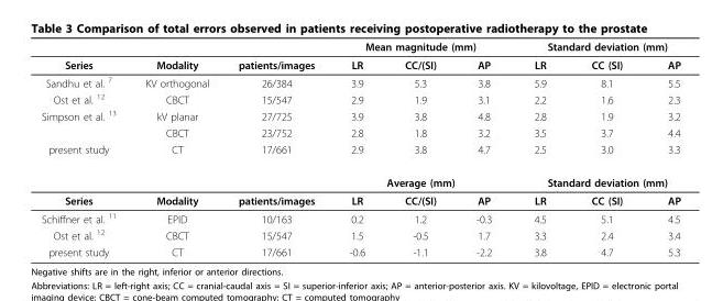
<table><thead><tr><td rowspan="2">Series</td><td rowspan="2">Modality</td><td rowspan="2">patients/images</td><td colspan="3">Mean magnitude (mm)</td><td colspan="3">Standard deviation (mm)</td></tr><tr><td>LR</td><td>CC/(SI)</td><td>AP</td><td>LR</td><td>CC (SI)</td><td>AP</td></tr></thead><tbody><tr><td>Sandhu et al. <sup>7</sup></td><td>KV orthogonal</td><td>26/384</td><td>3.9</td><td>5.3</td><td>3.8</td><td>5.9</td><td>8.1</td><td>5.5</td></tr><tr><td>Ost et al. <sup>12</sup></td><td>CBCT</td><td>15/547</td><td>2.9</td><td>1.9</td><td>3.1</td><td>2.2</td><td>1.6</td><td>2.3</td></tr><tr><td rowspan="2">Simpson et al. <sup>13</sup></td><td>kV planar</td><td>27/725</td><td>3.9</td><td>3.8</td><td>4.8</td><td>2.8</td><td>1.9</td><td>3.2</td></tr><tr><td>CBCT</td><td>23/752</td><td>2.8</td><td>1.8</td><td>3.2</td><td>3.5</td><td>3.7</td><td>4.4</td></tr><tr><td rowspan="2">present study</td><td>CT</td><td>17/661</td><td>2.9</td><td>3.8</td><td>4.7</td><td>2.5</td><td>3.0</td><td>3.3</td></tr><tr><td></td><td></td><td colspan="3">Average (mm)</td><td colspan="3">Standard deviation (mm)</td></tr><tr><td>Series</td><td>Modality</td><td>patients/images</td><td>LR</td><td>CC/(SI)</td><td>AP</td><td>LR</td><td>CC (SI)</td><td>AP</td></tr><tr><td>Schiffner et al. <sup>11</sup></td><td>EPID</td><td>10/163</td><td>0.2</td><td>1.2</td><td>-0.3</td><td>4.5</td><td>5.1</td><td>4.5</td></tr><tr><td>Ost et al. <sup>12</sup></td><td>CBCT</td><td>15/547</td><td>1.5</td><td>-0.5</td><td>1.7</td><td>3.3</td><td>2.4</td><td>3.4</td></tr><tr><td>present study</td><td>CT</td><td>17/661</td><td>-0.6</td><td>-1.1</td><td>-2.2</td><td>3.8</td><td>4.7</td><td>5.3</td></tr></tbody></table>